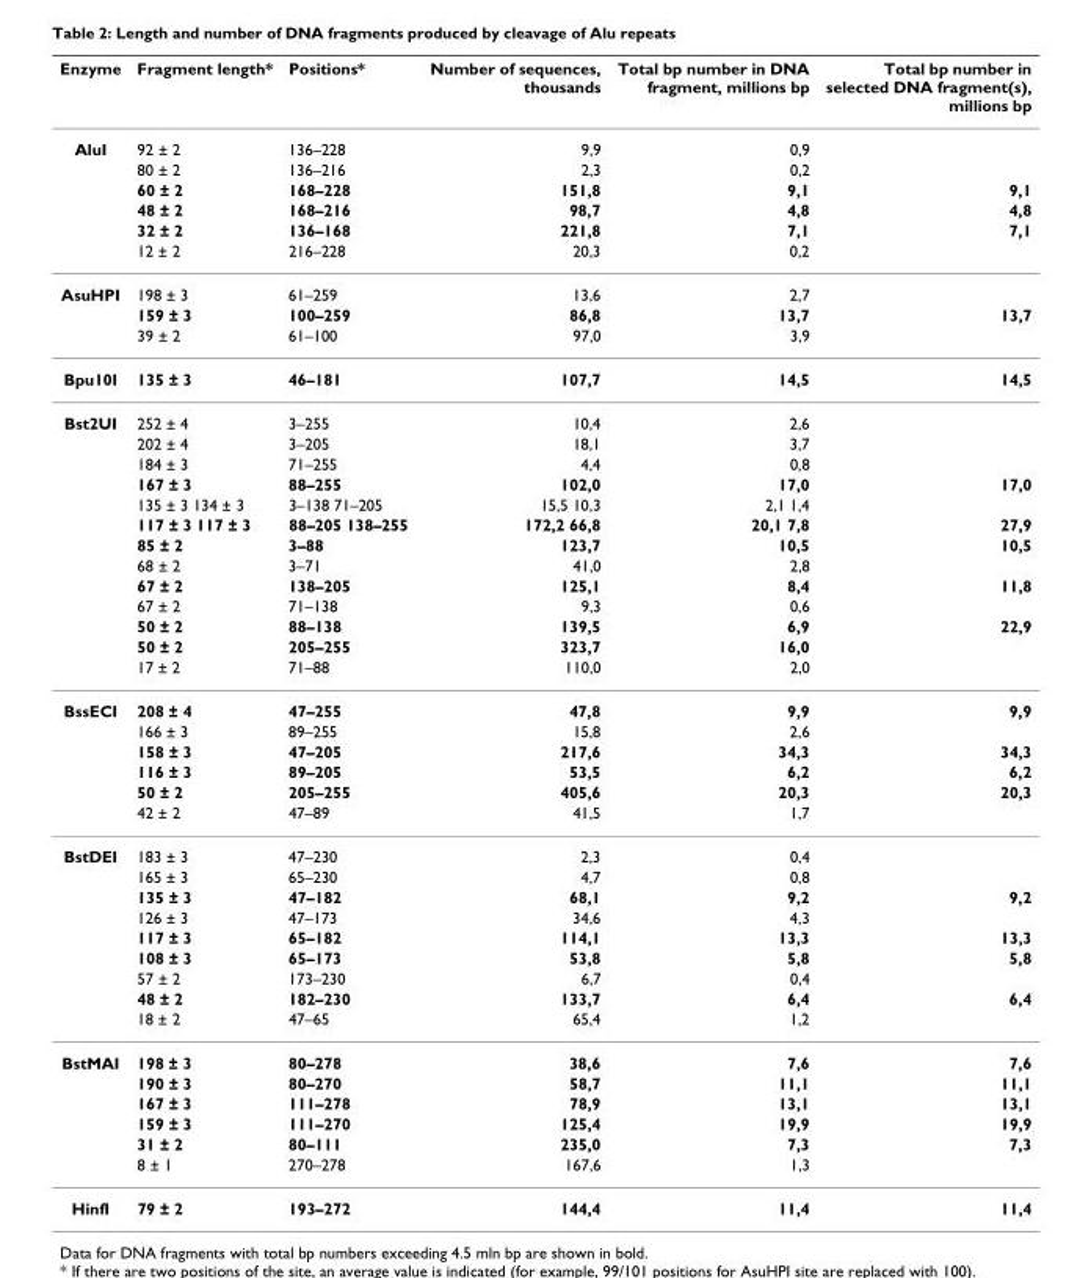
<table><thead><tr><td>Enzyme</td><td>Fragment length*</td><td>Positions*</td><td>Number of sequences, thousands</td><td>Total bp number in DNA fragment, millions bp</td><td>Total bp number in selected DNA fragment(s), millions bp</td></tr></thead><tbody><tr><td rowspan="6">AluI</td><td>92 ± 2</td><td>136–228</td><td>9,9</td><td>0,9</td><td></td></tr><tr><td>80 ± 2</td><td>136–216</td><td>2,3</td><td>0,2</td><td></td></tr><tr><td>60 ± 2</td><td>168–228</td><td>151,8</td><td>9,1</td><td>9,1</td></tr><tr><td>48 ± 2</td><td>168–216</td><td>98,7</td><td>4,8</td><td>4,8</td></tr><tr><td>32 ± 2</td><td>136–168</td><td>221,8</td><td>7,1</td><td>7,1</td></tr><tr><td>12 ± 2</td><td>216–228</td><td>20,3</td><td>0,2</td><td></td></tr><tr><td rowspan="3">AsuHPI</td><td>198 ± 3</td><td>61–259</td><td>13,6</td><td>2,7</td><td></td></tr><tr><td>159 ± 3</td><td>100–259</td><td>86,8</td><td>13,7</td><td>13,7</td></tr><tr><td>39 ± 2</td><td>61–100</td><td>97,0</td><td>3,9</td><td></td></tr><tr><td>Bpu10I</td><td>135 ± 3</td><td>46–181</td><td>107,7</td><td>14,5</td><td>14,5</td></tr><tr><td rowspan="13">Bst2UI</td><td>252 ± 4</td><td>3–255</td><td>10,4</td><td>2,6</td><td></td></tr><tr><td>202 ± 4</td><td>3–205</td><td>18,1</td><td>3,7</td><td></td></tr><tr><td>184 ± 3</td><td>71–255</td><td>4,4</td><td>0,8</td><td></td></tr><tr><td>167 ± 3</td><td>88–255</td><td>102,0</td><td>17,0</td><td>17,0</td></tr><tr><td>135 ± 3 134 ± 3</td><td>3–138 71–205</td><td>15,5 10,3</td><td>2,1 1,4</td><td></td></tr><tr><td>117 ± 3 117 ± 3</td><td>88–205 138–255</td><td>172,2 66,8</td><td>20,1 7,8</td><td>27,9</td></tr><tr><td>85 ± 2</td><td>3–88</td><td>123,7</td><td>10,5</td><td>10,5</td></tr><tr><td>68 ± 2</td><td>3–71</td><td>41,0</td><td>2,8</td><td></td></tr><tr><td>67 ± 2</td><td>138–205</td><td>125,1</td><td>8,4</td><td>11,8</td></tr><tr><td>67 ± 2</td><td>71–138</td><td>9,3</td><td>0,6</td><td></td></tr><tr><td>50 ± 2</td><td>88–138</td><td>139,5</td><td>6,9</td><td>22,9</td></tr><tr><td>50 ± 2</td><td>205–255</td><td>323,7</td><td>16,0</td><td></td></tr><tr><td>17 ± 2</td><td>71–88</td><td>110,0</td><td>2,0</td><td></td></tr><tr><td rowspan="6">BssECI</td><td>208 ± 4</td><td>47–255</td><td>47,8</td><td>9,9</td><td>9,9</td></tr><tr><td>166 ± 3</td><td>89–255</td><td>15,8</td><td>2,6</td><td></td></tr><tr><td>158 ± 3</td><td>47–205</td><td>217,6</td><td>34,3</td><td>34,3</td></tr><tr><td>116 ± 3</td><td>89–205</td><td>53,5</td><td>6,2</td><td>6,2</td></tr><tr><td>50 ± 2</td><td>205–255</td><td>405,6</td><td>20,3</td><td>20,3</td></tr><tr><td>42 ± 2</td><td>47–89</td><td>41,5</td><td>1,7</td><td></td></tr><tr><td rowspan="9">BstDEI</td><td>183 ± 3</td><td>47–230</td><td>2,3</td><td>0,4</td><td></td></tr><tr><td>165 ± 3</td><td>65–230</td><td>4,7</td><td>0,8</td><td></td></tr><tr><td>135 ± 3</td><td>47–182</td><td>68,1</td><td>9,2</td><td>9,2</td></tr><tr><td>126 ± 3</td><td>47–173</td><td>34,6</td><td>4,3</td><td></td></tr><tr><td>117 ± 3</td><td>65–182</td><td>114,1</td><td>13,3</td><td>13,3</td></tr><tr><td>108 ± 3</td><td>65–173</td><td>53,8</td><td>5,8</td><td>5,8</td></tr><tr><td>57 ± 2</td><td>173–230</td><td>6,7</td><td>0,4</td><td></td></tr><tr><td>48 ± 2</td><td>182–230</td><td>133,7</td><td>6,4</td><td>6,4</td></tr><tr><td>18 ± 2</td><td>47–65</td><td>65,4</td><td>1,2</td><td></td></tr><tr><td rowspan="6">BstMAI</td><td>198 ± 3</td><td>80–278</td><td>38,6</td><td>7,6</td><td>7,6</td></tr><tr><td>190 ± 3</td><td>80–270</td><td>58,7</td><td>11,1</td><td>11,1</td></tr><tr><td>167 ± 3</td><td>111–278</td><td>78,9</td><td>13,1</td><td>13,1</td></tr><tr><td>159 ± 3</td><td>111–270</td><td>125,4</td><td>19,9</td><td>19,9</td></tr><tr><td>31 ± 2</td><td>80–111</td><td>235,0</td><td>7,3</td><td>7,3</td></tr><tr><td>8 ± 1</td><td>270–278</td><td>167,6</td><td>1,3</td><td></td></tr><tr><td>HinfI</td><td>79 ± 2</td><td>193–272</td><td>144,4</td><td>11,4</td><td>11,4</td></tr></tbody></table>